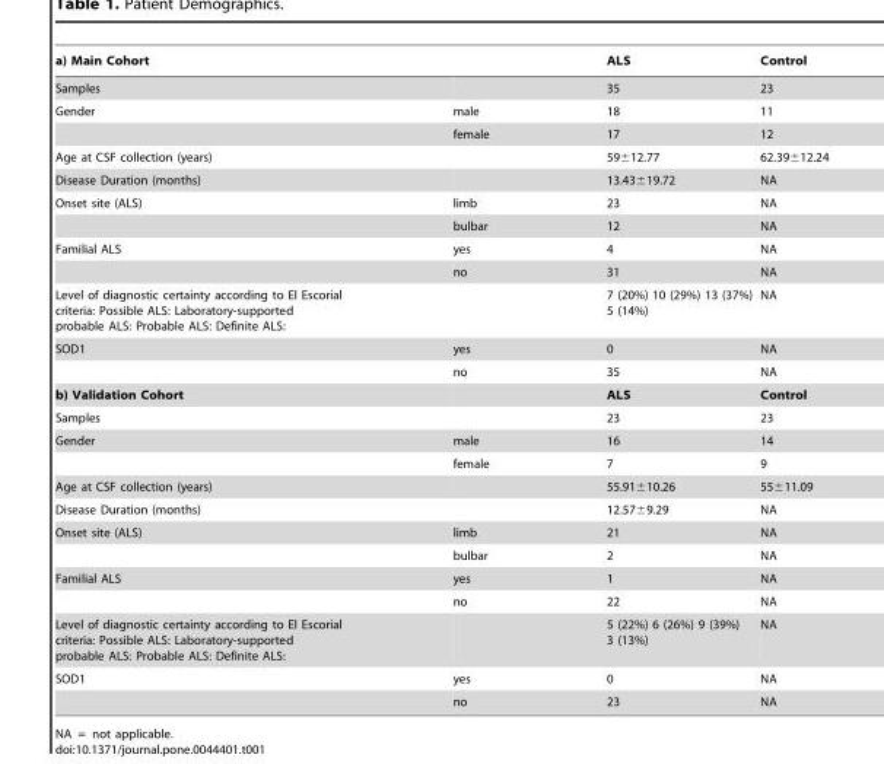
<table><thead><tr><td>a) Main Cohort</td><td></td><td>ALS</td><td>Control</td></tr></thead><tbody><tr><td>Samples</td><td></td><td>35</td><td>23</td></tr><tr><td rowspan="2">Gender</td><td>male</td><td>18</td><td>11</td></tr><tr><td>female</td><td>17</td><td>12</td></tr><tr><td>Age at CSF collection (years)</td><td></td><td>59±12.77</td><td>62.39±12.24</td></tr><tr><td>Disease Duration (months)</td><td></td><td>13.43±19.72</td><td>NA</td></tr><tr><td rowspan="2">Onset site (ALS)</td><td>limb</td><td>23</td><td>NA</td></tr><tr><td>bulbar</td><td>12</td><td>NA</td></tr><tr><td rowspan="2">Familial ALS</td><td>yes</td><td>4</td><td>NA</td></tr><tr><td>no</td><td>31</td><td>NA</td></tr><tr><td>Level of diagnostic certainty according to El Escorial criteria: Possible ALS: Laboratory-supported probable ALS: Probable ALS: Definite ALS:</td><td></td><td>7 (20%) 10 (29%) 13 (37%) 5 (14%)</td><td>NA</td></tr><tr><td rowspan="2">SOD1</td><td>yes</td><td>0</td><td>NA</td></tr><tr><td>no</td><td>35</td><td>NA</td></tr><tr><td>b) Validation Cohort</td><td></td><td>ALS</td><td>Control</td></tr><tr><td>Samples</td><td></td><td>23</td><td>23</td></tr><tr><td rowspan="2">Gender</td><td>male</td><td>16</td><td>14</td></tr><tr><td>female</td><td>7</td><td>9</td></tr><tr><td>Age at CSF collection (years)</td><td></td><td>55.91±10.26</td><td>55±11.09</td></tr><tr><td>Disease Duration (months)</td><td></td><td>12.57±9.29</td><td>NA</td></tr><tr><td rowspan="2">Onset site (ALS)</td><td>limb</td><td>21</td><td>NA</td></tr><tr><td>bulbar</td><td>2</td><td>NA</td></tr><tr><td rowspan="2">Familial ALS</td><td>yes</td><td>1</td><td>NA</td></tr><tr><td>no</td><td>22</td><td>NA</td></tr><tr><td>Level of diagnostic certainty according to El Escorial criteria: Possible ALS: Laboratory-supported probable ALS: Probable ALS: Definite ALS:</td><td></td><td>5 (22%) 6 (26%) 9 (39%) 3 (13%)</td><td>NA</td></tr><tr><td rowspan="2">SOD1</td><td>yes</td><td>0</td><td>NA</td></tr><tr><td>no</td><td>23</td><td>NA</td></tr></tbody></table>